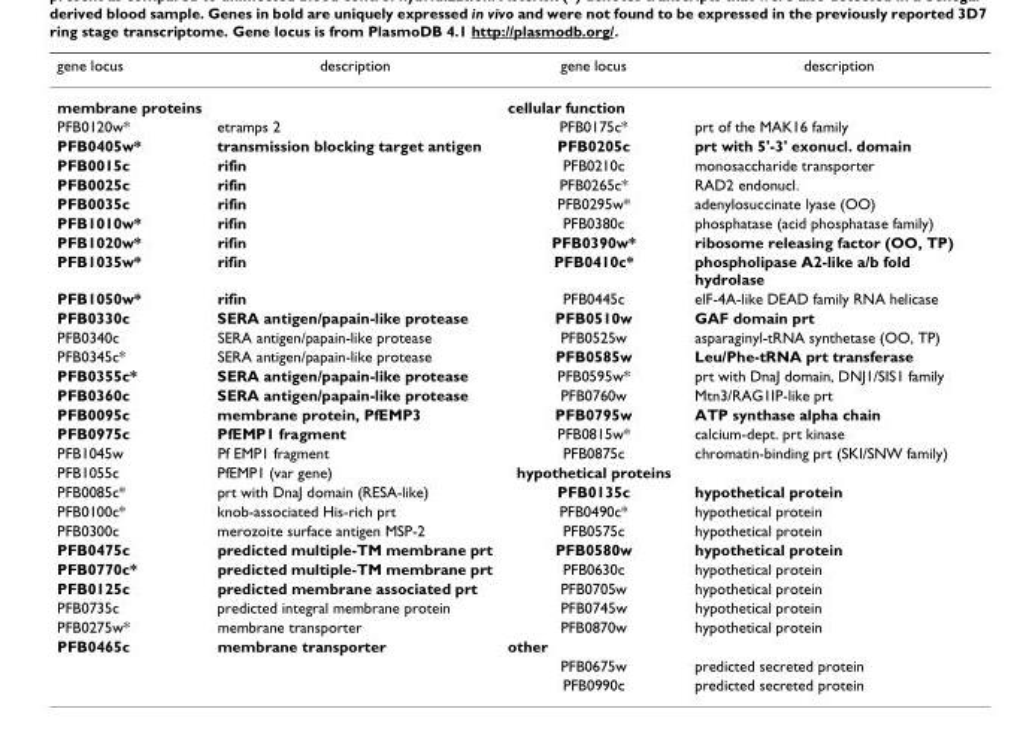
<table><thead><tr><td>gene locus</td><td>description</td><td>gene locus</td><td>description</td></tr></thead><tbody><tr><td colspan="2">membrane proteins</td><td colspan="2">cellular function</td></tr><tr><td>PFB0120w*</td><td>etramps 2</td><td>PFB0175c*</td><td>prt of the MAK16 family</td></tr><tr><td>PFB0405w*</td><td>transmission blocking target antigen</td><td>PFB0205c</td><td>prt with 5&#x27;-3&#x27; exonucl. domain</td></tr><tr><td>PFB0015c</td><td>rifin</td><td>PFB0210c</td><td>monosaccharide transporter</td></tr><tr><td>PFB0025c</td><td>rifin</td><td>PFB0265c*</td><td>RAD2 endonucl.</td></tr><tr><td>PFB0035c</td><td>rifin</td><td>PFB0295w*</td><td>adenylosuccinate lyase (OO)</td></tr><tr><td>PFB1010w*</td><td>rifin</td><td>PFB0380c</td><td>phosphatase (acid phosphatase family)</td></tr><tr><td>PFB1020w*</td><td>rifin</td><td>PFB0390w*</td><td>ribosome releasing factor (OO, TP)</td></tr><tr><td>PFB1035w*</td><td>rifin</td><td>PFB0410c*</td><td>phospholipase A2-like a/b fold hydrolase</td></tr><tr><td>PFB1050w*</td><td>rifin</td><td>PFB0445c</td><td>elF-4A-like DEAD family RNA helicase</td></tr><tr><td>PFB0330c</td><td>SERA antigen/papain-like protease</td><td>PFB0510w</td><td>GAF domain prt</td></tr><tr><td>PFB0340c</td><td>SERA antigen/papain-like protease</td><td>PFB0525w</td><td>asparaginyl-tRNA synthetase (OO, TP)</td></tr><tr><td>PFB0345c*</td><td>SERA antigen/papain-like protease</td><td>PFB0585w</td><td>Leu/Phe-tRNA prt transferase</td></tr><tr><td>PFB0355c*</td><td>SERA antigen/papain-like protease</td><td>PFB0595w*</td><td>prt with DnaJ domain, DNJ1/SIS1 family</td></tr><tr><td>PFB0360c</td><td>SERA antigen/papain-like protease</td><td>PFB0760w</td><td>Mtn3/RAG1IP-like prt</td></tr><tr><td>PFB0095c</td><td>membrane protein, PfEMP3</td><td>PFB0795w</td><td>ATP synthase alpha chain</td></tr><tr><td>PFB0975c</td><td>PfEMP1 fragment</td><td>PFB0815w*</td><td>calcium-dept. prt kinase</td></tr><tr><td>PFB1045w</td><td>Pf EMP1 fragment</td><td>PFB0875c</td><td>chromatin-binding prt (SKI/SNW family)</td></tr><tr><td>PFB1055c</td><td>PfEMP1 (var gene)</td><td>hypothetical proteins</td><td></td></tr><tr><td>PFB0085c*</td><td>prt with DnaJ domain (RESA-like)</td><td>PFB0135c</td><td>hypothetical protein</td></tr><tr><td>PFB0100c*</td><td>knob-associated His-rich prt</td><td>PFB0490c*</td><td>hypothetical protein</td></tr><tr><td>PFB0300c</td><td>merozoite surface antigen MSP-2</td><td>PFB0575c</td><td>hypothetical protein</td></tr><tr><td>PFB0475c</td><td>predicted multiple-TM membrane prt</td><td>PFB0580w</td><td>hypothetical protein</td></tr><tr><td>PFB0770c*</td><td>predicted multiple-TM membrane prt</td><td>PFB0630c</td><td>hypothetical protein</td></tr><tr><td>PFB0125c</td><td>predicted membrane associated prt</td><td>PFB0705w</td><td>hypothetical protein</td></tr><tr><td>PFB0735c</td><td>predicted integral membrane protein</td><td>PFB0745w</td><td>hypothetical protein</td></tr><tr><td>PFB0275w*</td><td>membrane transporter</td><td>PFB0870w</td><td>hypothetical protein</td></tr><tr><td rowspan="3">PFB0465c</td><td>membrane transporter</td><td>other</td><td></td></tr><tr><td></td><td>PFB0675w</td><td>predicted secreted protein</td></tr><tr><td></td><td>PFB0990c</td><td>predicted secreted protein</td></tr></tbody></table>